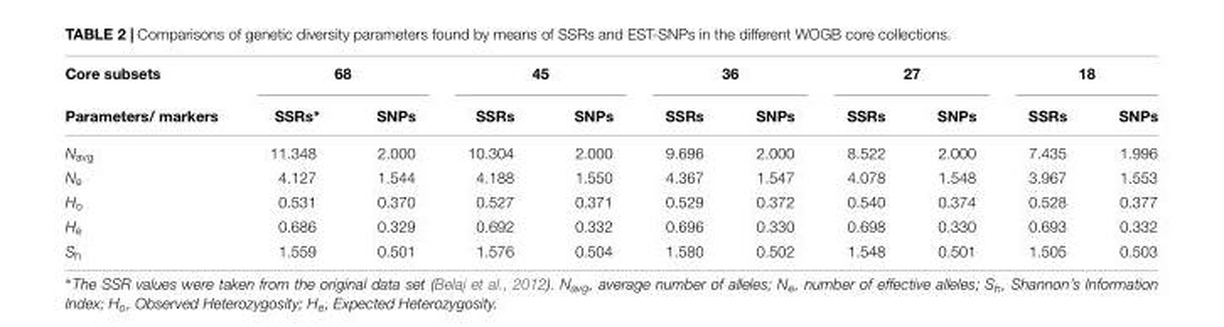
<table><thead><tr><td rowspan="2">Core subsets Parameters/ markers</td><td colspan="2">68</td><td colspan="2">45</td><td colspan="2">36</td><td colspan="2">27</td><td colspan="2">18</td></tr><tr><td>SSRs∗</td><td>SNPs</td><td>SSRs</td><td>SNPs</td><td>SSRs</td><td>SNPs</td><td>SSRs</td><td>SNPs</td><td>SSRs</td><td>SNPs</td></tr></thead><tbody><tr><td>N<sub>avg</sub></td><td>11.348</td><td>2.000</td><td>10.304</td><td>2.000</td><td>9.696</td><td>2.000</td><td>8.522</td><td>2.000</td><td>7.435</td><td>1.996</td></tr><tr><td>N<sub>e</sub></td><td>4.127</td><td>1.544</td><td>4.188</td><td>1.550</td><td>4.367</td><td>1.547</td><td>4.078</td><td>1.548</td><td>3.967</td><td>1.553</td></tr><tr><td>H<sub>o</sub></td><td>0.531</td><td>0.370</td><td>0.527</td><td>0.371</td><td>0.529</td><td>0.372</td><td>0.540</td><td>0.374</td><td>0.528</td><td>0.377</td></tr><tr><td>H<sub>e</sub></td><td>0.686</td><td>0.329</td><td>0.692</td><td>0.332</td><td>0.696</td><td>0.330</td><td>0.698</td><td>0.330</td><td>0.693</td><td>0.332</td></tr><tr><td>S<sub>h</sub></td><td>1.559</td><td>0.501</td><td>1.576</td><td>0.504</td><td>1.580</td><td>0.502</td><td>1.548</td><td>0.501</td><td>1.505</td><td>0.503</td></tr></tbody></table>